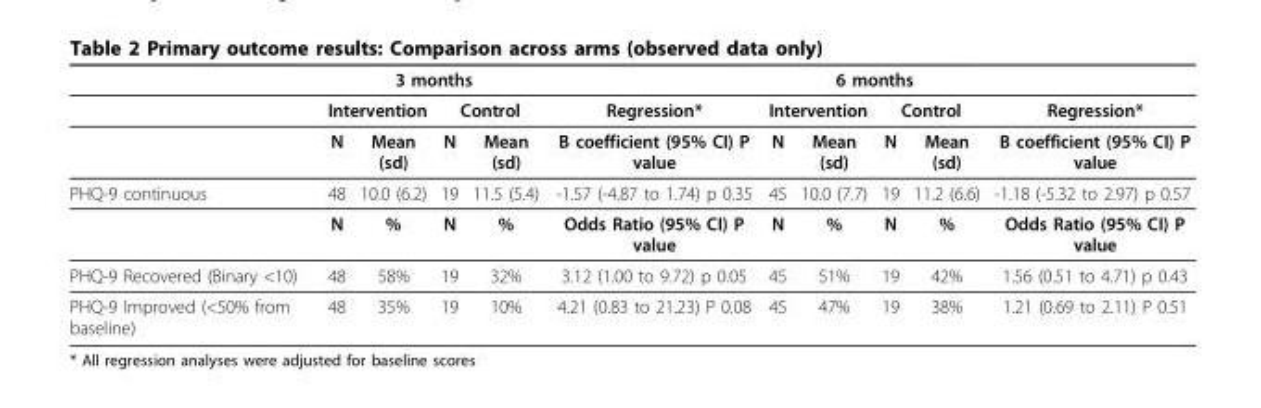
<table><thead><tr><td rowspan="3"></td><td colspan="4">3 months</td><td rowspan="3">Regression* B coefficient (95% CI) P value</td><td colspan="4">6 months</td><td rowspan="3">Regression* B coefficient (95% CI) P value</td></tr><tr><td colspan="2">Intervention</td><td colspan="2">Control</td><td colspan="2">Intervention</td><td colspan="2">Control</td></tr><tr><td>N</td><td>Mean (sd)</td><td>N</td><td>Mean (sd)</td><td>N</td><td>Mean (sd)</td><td>N</td><td>Mean (sd)</td></tr></thead><tbody><tr><td rowspan="2">PHQ-9 continuous</td><td>48</td><td>10.0 (6.2)</td><td>19</td><td>11.5 (5.4)</td><td>-1.57 (-4.87 to 1.74) p 0.35</td><td>45</td><td>10.0 (7.7)</td><td>19</td><td>11.2 (6.6)</td><td>-1.18 (-5.32 to 2.97) p 0.57</td></tr><tr><td>N</td><td>%</td><td>N</td><td>%</td><td>Odds Ratio (95% CI) P value</td><td>N</td><td>%</td><td>N</td><td>%</td><td>Odds Ratio (95% CI) P value</td></tr><tr><td>PHQ-9 Recovered (Binary &lt;10)</td><td>48</td><td>58%</td><td>19</td><td>32%</td><td>3.12 (1.00 to 9.72) p 0.05</td><td>45</td><td>51%</td><td>19</td><td>42%</td><td>1.56 (0.51 to 4.71) p 0.43</td></tr><tr><td>PHQ-9 Improved (&lt;50% from baseline)</td><td>48</td><td>35%</td><td>19</td><td>10%</td><td>4.21 (0.83 to 21.23) P 0.08</td><td>45</td><td>47%</td><td>19</td><td>38%</td><td>1.21 (0.69 to 2.11) P 0.51</td></tr></tbody></table>